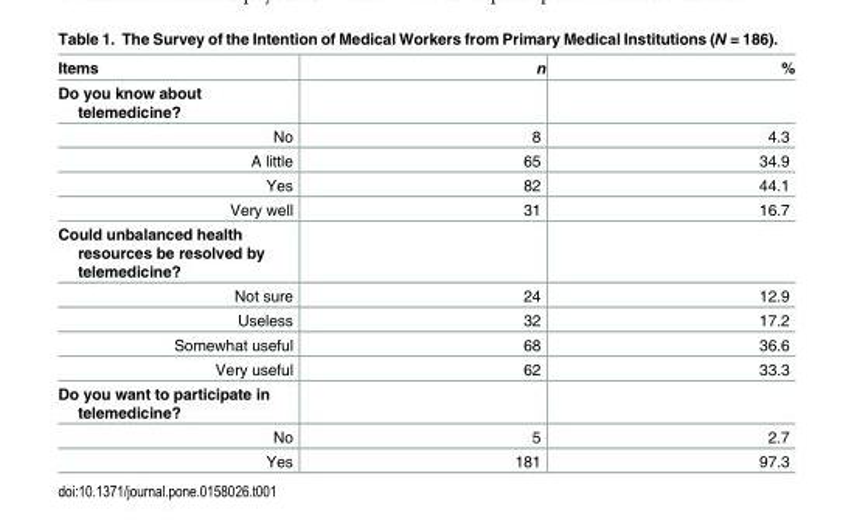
<table><thead><tr><td>Items</td><td>n</td><td>%</td></tr></thead><tbody><tr><td colspan="3">Do you know about telemedicine?</td></tr><tr><td>No</td><td>8</td><td>4.3</td></tr><tr><td>A little</td><td>65</td><td>34.9</td></tr><tr><td>Yes</td><td>82</td><td>44.1</td></tr><tr><td>Very well</td><td>31</td><td>16.7</td></tr><tr><td colspan="3">Could unbalanced health resources be resolved by telemedicine?</td></tr><tr><td>Not sure</td><td>24</td><td>12.9</td></tr><tr><td>Useless</td><td>32</td><td>17.2</td></tr><tr><td>Somewhat useful</td><td>68</td><td>36.6</td></tr><tr><td>Very useful</td><td>62</td><td>33.3</td></tr><tr><td colspan="3">Do you want to participate in telemedicine?</td></tr><tr><td>No</td><td>5</td><td>2.7</td></tr><tr><td>Yes</td><td>181</td><td>97.3</td></tr></tbody></table>